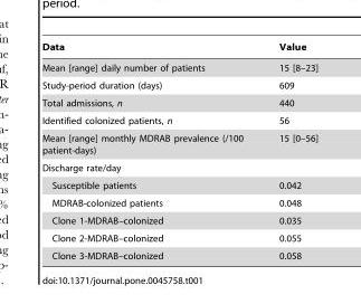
<table><thead><tr><td>Data</td><td>Value</td></tr></thead><tbody><tr><td>Mean [range] daily number of patients</td><td>15 [8–23]</td></tr><tr><td>Study-period duration (days)</td><td>609</td></tr><tr><td>Total admissions, n</td><td>440</td></tr><tr><td>Identified colonized patients, n</td><td>56</td></tr><tr><td>Mean [range] monthly MDRAB prevalence (/100 patient-days)</td><td>15 [0–56]</td></tr><tr><td colspan="2">Discharge rate/day</td></tr><tr><td>Susceptible patients</td><td>0.042</td></tr><tr><td>MDRAB-colonized patients</td><td>0.048</td></tr><tr><td>Clone 1-MDRAB–colonized</td><td>0.035</td></tr><tr><td>Clone 2-MDRAB–colonized</td><td>0.055</td></tr><tr><td>Clone 3-MDRAB–colonized</td><td>0.058</td></tr></tbody></table>